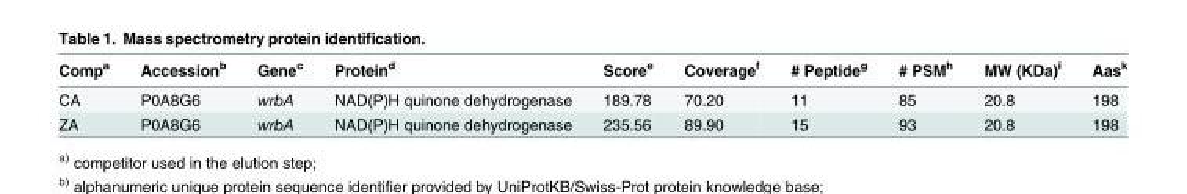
<table><thead><tr><td>Comp<sup>a</sup></td><td>Accession<sup>b</sup></td><td>Gene<sup>c</sup></td><td>Protein<sup>d</sup></td><td>Score<sup>e</sup></td><td>Coverage<sup>f</sup></td><td># Peptide<sup>g</sup></td><td># PSM<sup>h</sup></td><td>MW (KDa)<sup>i</sup></td><td>Aas<sup>k</sup></td></tr></thead><tbody><tr><td>CA</td><td>P0A8G6</td><td>wrbA</td><td>NAD(P)H quinone dehydrogenase</td><td>189.78</td><td>70.20</td><td>11</td><td>85</td><td>20.8</td><td>198</td></tr><tr><td>ZA</td><td>P0A8G6</td><td>wrbA</td><td>NAD(P)H quinone dehydrogenase</td><td>235.56</td><td>89.90</td><td>15</td><td>93</td><td>20.8</td><td>198</td></tr></tbody></table>